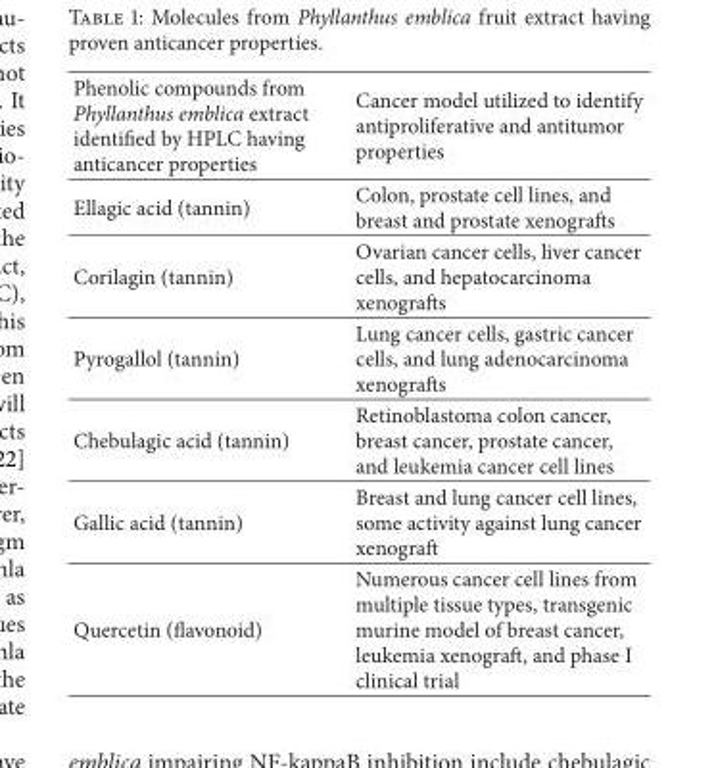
<table><thead><tr><td>Phenolic compounds from Phyllanthus emblica extract identified by HPLC having anticancer properties</td><td>Cancer model utilized to identify antiproliferative and antitumor properties</td></tr></thead><tbody><tr><td>Ellagic acid (tannin)</td><td>Colon, prostate cell lines, and breast and prostate xenografts</td></tr><tr><td>Corilagin (tannin)</td><td>Ovarian cancer cells, liver cancer cells, and hepatocarcinoma xenografts</td></tr><tr><td>Pyrogallol (tannin)</td><td>Lung cancer cells, gastric cancer cells, and lung adenocarcinoma xenografts</td></tr><tr><td>Chebulagic acid (tannin)</td><td>Retinoblastoma colon cancer, breast cancer, prostate cancer, and leukemia cancer cell lines</td></tr><tr><td>Gallic acid (tannin)</td><td>Breast and lung cancer cell lines, some activity against lung cancer xenograft</td></tr><tr><td>Quercetin (flavonoid)</td><td>Numerous cancer cell lines from multiple tissue types, transgenic murine model of breast cancer, leukemia xenograft, and phase I clinical trial</td></tr></tbody></table>